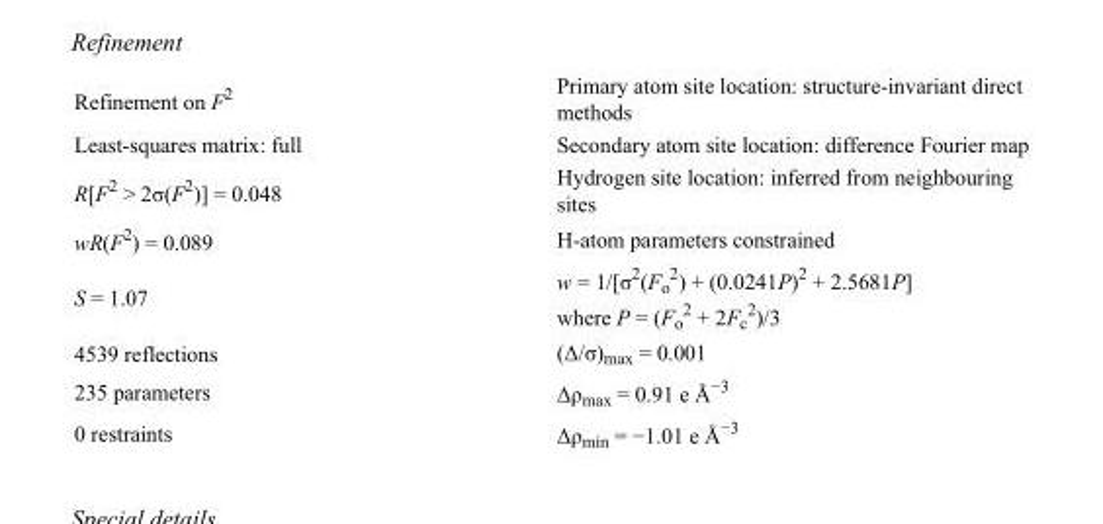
<table><tbody><tr><td>Refinement on F<sup>2</sup></td><td>Primary atom site location: structure-invariant direct methods</td></tr><tr><td>Least-squares matrix: full</td><td>Secondary atom site location: difference Fourier map</td></tr><tr><td>R[F<sup>2</sup> &gt; 2σ(F<sup>2</sup>)] = 0.048</td><td>Hydrogen site location: inferred from neighbouring sites</td></tr><tr><td>wR(F<sup>2</sup>) = 0.089</td><td>H-atom parameters constrained</td></tr><tr><td>S = 1.07</td><td>w = 1/[σ<sup>2</sup>(F<sub>o</sub> <sup>2</sup>) + (0.0241P)<sup>2</sup> + 2.5681P] where P = (F<sub>o</sub> <sup>2</sup> + 2F<sub>c</sub> <sup>2</sup>)/3</td></tr><tr><td>4539 reflections</td><td>(Δ/σ)<sub>max</sub> = 0.001</td></tr><tr><td>235 parameters</td><td>Δρ<sub>max</sub> = 0.91 e Å<sup>−3</sup></td></tr><tr><td>0 restraints</td><td>Δρ<sub>min</sub> = −1.01 e Å<sup>−3</sup></td></tr></tbody></table>